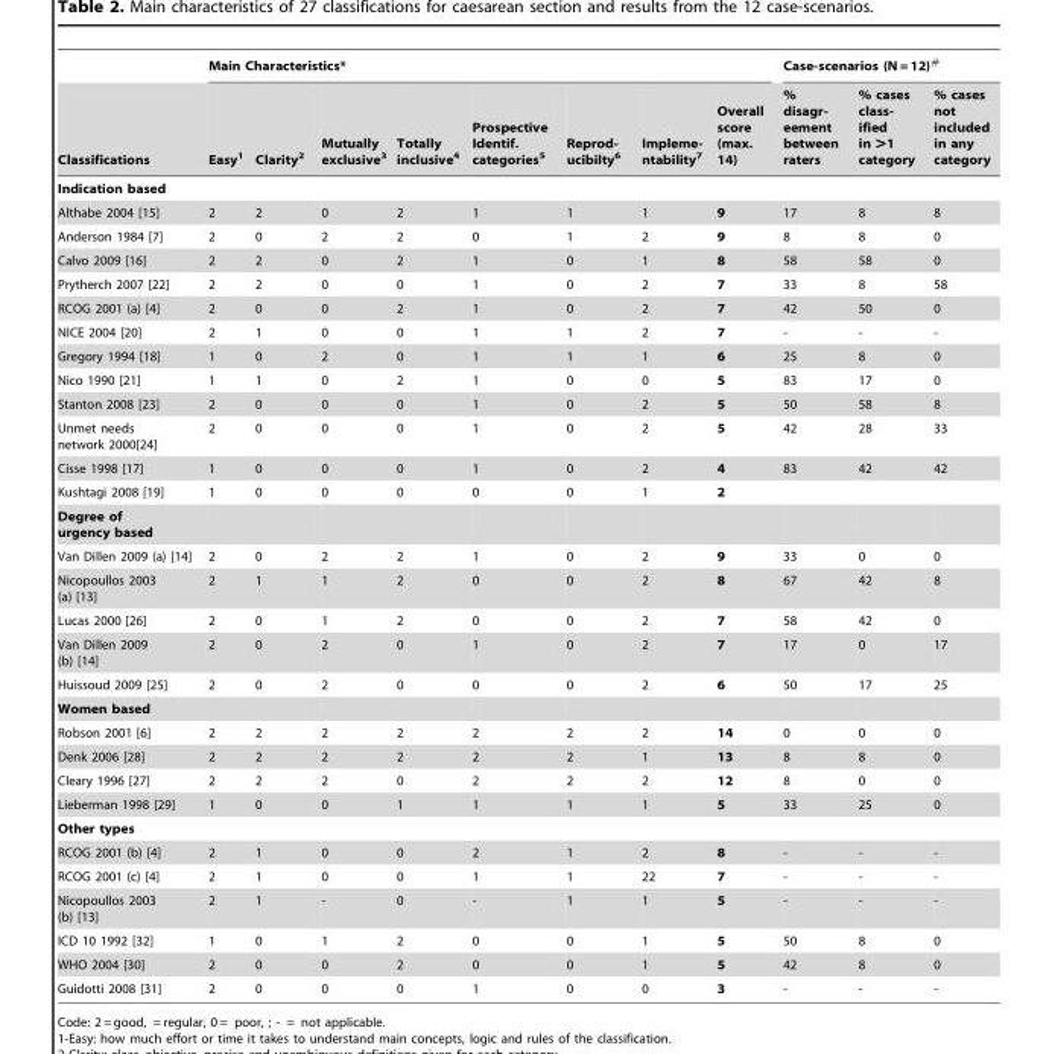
<table><thead><tr><td rowspan="2">Classifications</td><td colspan="8">Main Characteristics*</td><td colspan="3">Case-scenarios (N = 12)<sup>#</sup></td></tr><tr><td>Easy<sup>1</sup></td><td>Clarity<sup>2</sup></td><td>Mutually exclusive<sup>3</sup></td><td>Totally inclusive<sup>4</sup></td><td>Prospective Identif. categories<sup>5</sup></td><td>Reprod- ucibilty6</td><td>Impleme- ntability7</td><td>Overall score (max. 14)</td><td>% disagr- eement between raters</td><td>% cases class- ified in .1 category</td><td>% cases not included in any category</td></tr></thead><tbody><tr><td colspan="12">Indication based</td></tr><tr><td>Althabe 2004 [15]</td><td>2</td><td>2</td><td>0</td><td>2</td><td>1</td><td>1</td><td>1</td><td>9</td><td>17</td><td>8</td><td>8</td></tr><tr><td>Anderson 1984 [7]</td><td>2</td><td>0</td><td>2</td><td>2</td><td>0</td><td>1</td><td>2</td><td>9</td><td>8</td><td>8</td><td>0</td></tr><tr><td>Calvo 2009 [16]</td><td>2</td><td>2</td><td>0</td><td>2</td><td>1</td><td>0</td><td>1</td><td>8</td><td>58</td><td>58</td><td>0</td></tr><tr><td>Prytherch 2007 [22]</td><td>2</td><td>2</td><td>0</td><td>0</td><td>1</td><td>0</td><td>2</td><td>7</td><td>33</td><td>8</td><td>58</td></tr><tr><td>RCOG 2001 (a) [4]</td><td>2</td><td>0</td><td>0</td><td>2</td><td>1</td><td>0</td><td>2</td><td>7</td><td>42</td><td>50</td><td>0</td></tr><tr><td>NICE 2004 [20]</td><td>2</td><td>1</td><td>0</td><td>0</td><td>1</td><td>1</td><td>2</td><td>7</td><td>-</td><td>-</td><td>-</td></tr><tr><td>Gregory 1994 [18]</td><td>1</td><td>0</td><td>2</td><td>0</td><td>1</td><td>1</td><td>1</td><td>6</td><td>25</td><td>8</td><td>0</td></tr><tr><td>Nico 1990 [21]</td><td>1</td><td>1</td><td>0</td><td>2</td><td>1</td><td>0</td><td>0</td><td>5</td><td>83</td><td>17</td><td>0</td></tr><tr><td>Stanton 2008 [23]</td><td>2</td><td>0</td><td>0</td><td>0</td><td>1</td><td>0</td><td>2</td><td>5</td><td>50</td><td>58</td><td>8</td></tr><tr><td>Unmet needs network 2000[24]</td><td>2</td><td>0</td><td>0</td><td>0</td><td>1</td><td>0</td><td>2</td><td>5</td><td>42</td><td>28</td><td>33</td></tr><tr><td>Cisse 1998 [17]</td><td>1</td><td>0</td><td>0</td><td>0</td><td>1</td><td>0</td><td>2</td><td>4</td><td>83</td><td>42</td><td>42</td></tr><tr><td>Kushtagi 2008 [19]</td><td>1</td><td>0</td><td>0</td><td>0</td><td>0</td><td>0</td><td>1</td><td>2</td><td></td><td></td><td></td></tr><tr><td colspan="12">Degree of urgency based</td></tr><tr><td>Van Dillen 2009 (a) [14]</td><td>2</td><td>0</td><td>2</td><td>2</td><td>1</td><td>0</td><td>2</td><td>9</td><td>33</td><td>0</td><td>0</td></tr><tr><td>Nicopoullos 2003 (a) [13]</td><td>2</td><td>1</td><td>1</td><td>2</td><td>0</td><td>0</td><td>2</td><td>8</td><td>67</td><td>42</td><td>8</td></tr><tr><td>Lucas 2000 [26]</td><td>2</td><td>0</td><td>1</td><td>2</td><td>0</td><td>0</td><td>2</td><td>7</td><td>58</td><td>42</td><td>0</td></tr><tr><td>Van Dillen 2009 (b) [14]</td><td>2</td><td>0</td><td>2</td><td>0</td><td>1</td><td>0</td><td>2</td><td>7</td><td>17</td><td>0</td><td>17</td></tr><tr><td>Huissoud 2009 [25]</td><td>2</td><td>0</td><td>2</td><td>0</td><td>0</td><td>0</td><td>2</td><td>6</td><td>50</td><td>17</td><td>25</td></tr><tr><td colspan="12">Women based</td></tr><tr><td>Robson 2001 [6]</td><td>2</td><td>2</td><td>2</td><td>2</td><td>2</td><td>2</td><td>2</td><td>14</td><td>0</td><td>0</td><td>0</td></tr><tr><td>Denk 2006 [28]</td><td>2</td><td>2</td><td>2</td><td>2</td><td>2</td><td>2</td><td>1</td><td>13</td><td>8</td><td>8</td><td>0</td></tr><tr><td>Cleary 1996 [27]</td><td>2</td><td>2</td><td>2</td><td>0</td><td>2</td><td>2</td><td>2</td><td>12</td><td>8</td><td>0</td><td>0</td></tr><tr><td>Lieberman 1998 [29]</td><td>1</td><td>0</td><td>0</td><td>1</td><td>1</td><td>1</td><td>1</td><td>5</td><td>33</td><td>25</td><td>0</td></tr><tr><td colspan="12">Other types</td></tr><tr><td>RCOG 2001 (b) [4]</td><td>2</td><td>1</td><td>0</td><td>0</td><td>2</td><td>1</td><td>2</td><td>8</td><td>-</td><td>-</td><td>-</td></tr><tr><td>RCOG 2001 (c) [4]</td><td>2</td><td>1</td><td>0</td><td>0</td><td>1</td><td>1</td><td>22</td><td>7</td><td>-</td><td>-</td><td>-</td></tr><tr><td>Nicopoullos 2003 (b) [13]</td><td>2</td><td>1</td><td>-</td><td>0</td><td>-</td><td>1</td><td>1</td><td>5</td><td>-</td><td>-</td><td>-</td></tr><tr><td>ICD 10 1992 [32]</td><td>1</td><td>0</td><td>1</td><td>2</td><td>0</td><td>0</td><td>1</td><td>5</td><td>50</td><td>8</td><td>0</td></tr><tr><td>WHO 2004 [30]</td><td>2</td><td>0</td><td>0</td><td>2</td><td>0</td><td>0</td><td>1</td><td>5</td><td>42</td><td>8</td><td>0</td></tr><tr><td>Guidotti 2008 [31]</td><td>2</td><td>0</td><td>0</td><td>0</td><td>1</td><td>0</td><td>0</td><td>3</td><td>-</td><td>-</td><td>-</td></tr></tbody></table>